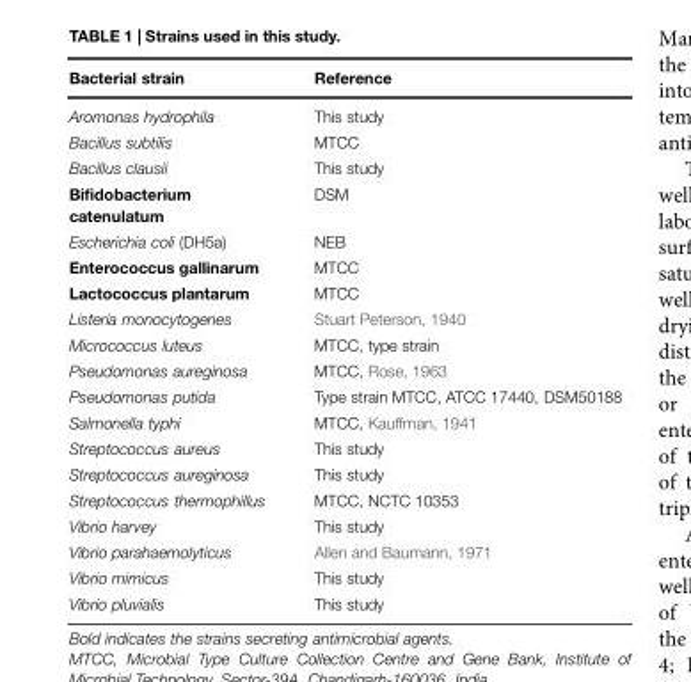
<table><thead><tr><td>Bacterial strain</td><td>Reference</td></tr></thead><tbody><tr><td>Aromonas hydrophila</td><td>This study</td></tr><tr><td>Bacillus subtilis</td><td>MTCC</td></tr><tr><td>Bacillus clausii</td><td>This study</td></tr><tr><td>Bifidobacterium catenulatum</td><td>DSM</td></tr><tr><td>Escherichia coli (DH5a)</td><td>NEB</td></tr><tr><td>Enterococcus gallinarum</td><td>MTCC</td></tr><tr><td>Lactococcus plantarum</td><td>MTCC</td></tr><tr><td>Listeria monocytogenes</td><td>Stuart Peterson, 1940</td></tr><tr><td>Micrococcus luteus</td><td>MTCC, type strain</td></tr><tr><td>Pseudomonas aureginosa</td><td>MTCC, Rose, 1963</td></tr><tr><td>Pseudomonas putida</td><td>Type strain MTCC, ATCC 17440, DSM50188</td></tr><tr><td>Salmonella typhi</td><td>MTCC, Kauffman, 1941</td></tr><tr><td>Streptococcus aureus</td><td>This study</td></tr><tr><td>Streptococcus aureginosa</td><td>This study</td></tr><tr><td>Streptococcus thermophillus</td><td>MTCC, NCTC 10353</td></tr><tr><td>Vibrio harvey</td><td>This study</td></tr><tr><td>Vibrio parahaemolyticus</td><td>Allen and Baumann, 1971</td></tr><tr><td>Vibrio mimicus</td><td>This study</td></tr><tr><td>Vibrio pluvialis</td><td>This study</td></tr></tbody></table>